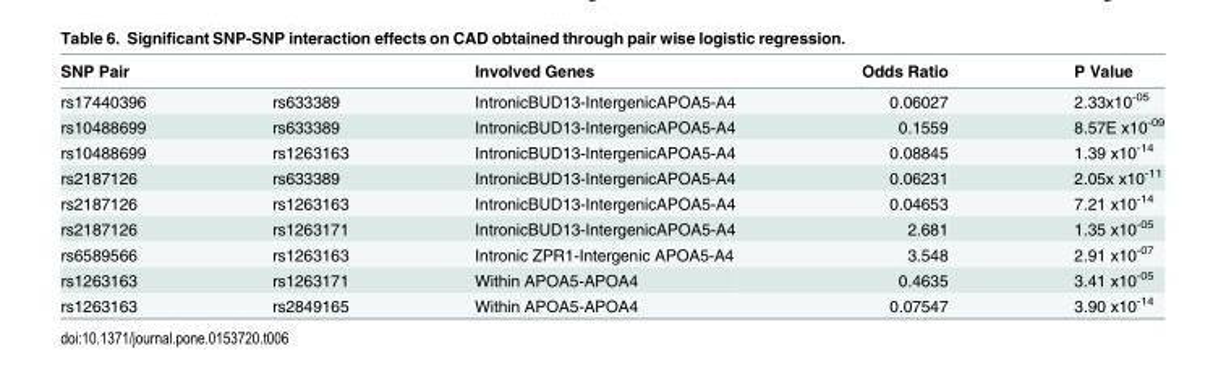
<table><thead><tr><td colspan="2">SNP Pair</td><td rowspan="2">Involved Genes IntronicBUD13-IntergenicAPOA5-A4</td><td rowspan="2">Odds Ratio 0.06027</td><td rowspan="2">P Value 2.33x10<sup>-05</sup></td></tr><tr><td>rs17440396</td><td>rs633389</td></tr></thead><tbody><tr><td>rs10488699</td><td>rs633389</td><td>IntronicBUD13-IntergenicAPOA5-A4</td><td>0.1559</td><td>8.57E x10<sup>-09</sup></td></tr><tr><td>rs10488699</td><td>rs1263163</td><td>IntronicBUD13-IntergenicAPOA5-A4</td><td>0.08845</td><td>1.39 x10<sup>-14</sup></td></tr><tr><td>rs2187126</td><td>rs633389</td><td>IntronicBUD13-IntergenicAPOA5-A4</td><td>0.06231</td><td>2.05x x10<sup>-11</sup></td></tr><tr><td>rs2187126</td><td>rs1263163</td><td>IntronicBUD13-IntergenicAPOA5-A4</td><td>0.04653</td><td>7.21 x10<sup>-14</sup></td></tr><tr><td>rs2187126</td><td>rs1263171</td><td>IntronicBUD13-IntergenicAPOA5-A4</td><td>2.681</td><td>1.35 x10<sup>-05</sup></td></tr><tr><td>rs6589566</td><td>rs1263163</td><td>Intronic ZPR1-Intergenic APOA5-A4</td><td>3.548</td><td>2.91 x10<sup>-07</sup></td></tr><tr><td>rs1263163</td><td>rs1263171</td><td>Within APOA5-APOA4</td><td>0.4635</td><td>3.41 x10<sup>-05</sup></td></tr><tr><td>rs1263163</td><td>rs2849165</td><td>Within APOA5-APOA4</td><td>0.07547</td><td>3.90 x10<sup>-14</sup></td></tr></tbody></table>